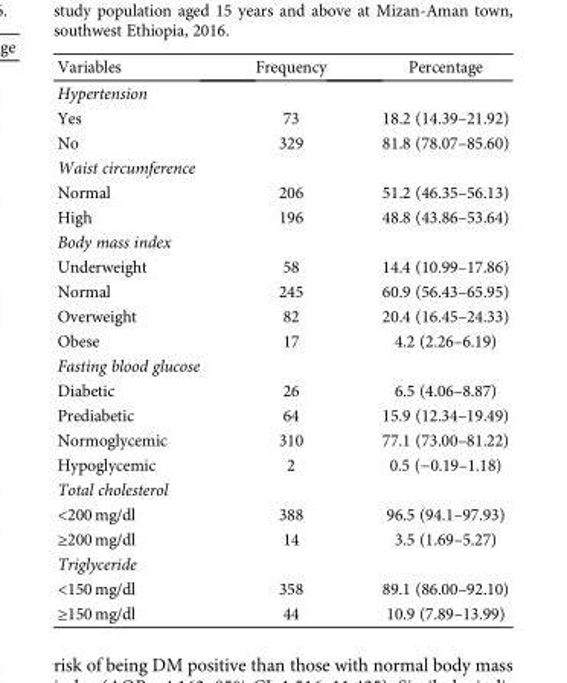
<table><thead><tr><td>Variables</td><td>Frequency</td><td>Percentage</td></tr></thead><tbody><tr><td colspan="3">Hypertension</td></tr><tr><td>Yes</td><td>73</td><td>18.2 (14.39–21.92)</td></tr><tr><td>No</td><td>329</td><td>81.8 (78.07–85.60)</td></tr><tr><td colspan="3">Waist circumference</td></tr><tr><td>Normal</td><td>206</td><td>51.2 (46.35–56.13)</td></tr><tr><td>High</td><td>196</td><td>48.8 (43.86–53.64)</td></tr><tr><td colspan="3">Body mass index</td></tr><tr><td>Underweight</td><td>58</td><td>14.4 (10.99–17.86)</td></tr><tr><td>Normal</td><td>245</td><td>60.9 (56.43–65.95)</td></tr><tr><td>Overweight</td><td>82</td><td>20.4 (16.45–24.33)</td></tr><tr><td>Obese</td><td>17</td><td>4.2 (2.26–6.19)</td></tr><tr><td colspan="3">Fasting blood glucose</td></tr><tr><td>Diabetic</td><td>26</td><td>6.5 (4.06–8.87)</td></tr><tr><td>Prediabetic</td><td>64</td><td>15.9 (12.34–19.49)</td></tr><tr><td>Normoglycemic</td><td>310</td><td>77.1 (73.00–81.22)</td></tr><tr><td>Hypoglycemic</td><td>2</td><td>0.5 (−0.19–1.18)</td></tr><tr><td colspan="3">Total cholesterol</td></tr><tr><td>&lt;200 mg/dl</td><td>388</td><td>96.5 (94.1–97.93)</td></tr><tr><td>≥200 mg/dl</td><td>14</td><td>3.5 (1.69–5.27)</td></tr><tr><td colspan="3">Triglyceride</td></tr><tr><td>&lt;150 mg/dl</td><td>358</td><td>89.1 (86.00–92.10)</td></tr><tr><td>≥150 mg/dl</td><td>44</td><td>10.9 (7.89–13.99)</td></tr></tbody></table>